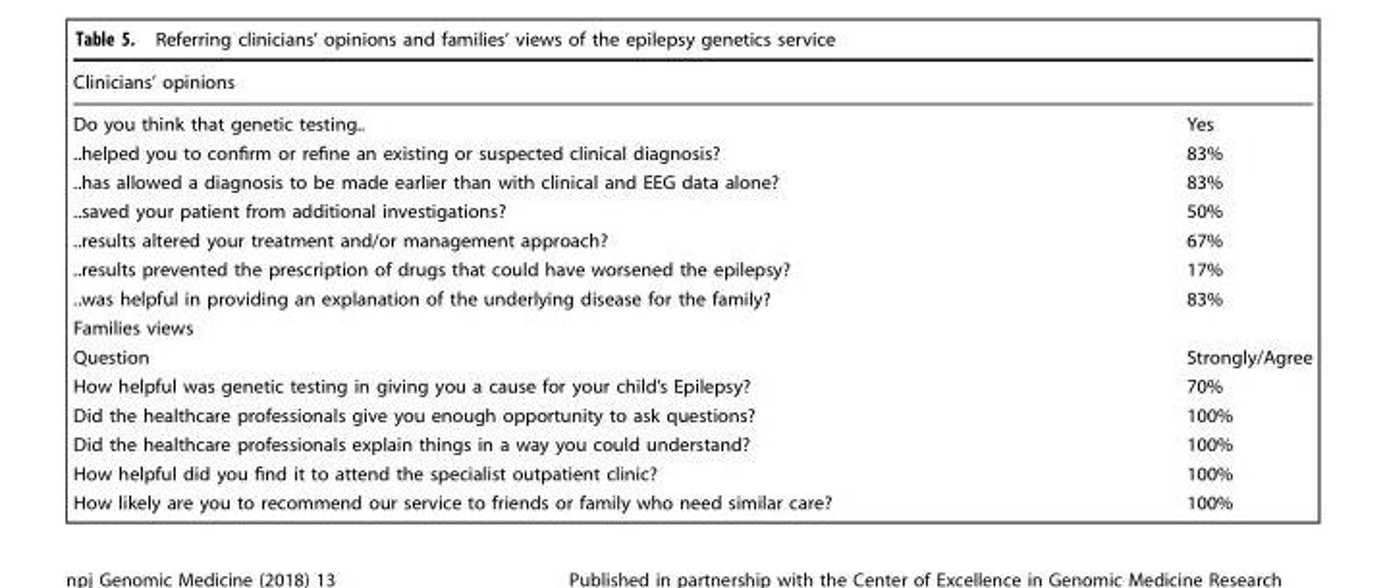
<table><thead><tr><td colspan="2">Clinicians’ opinions</td></tr><tr><td>Do you think that genetic testing..</td><td>Yes</td></tr></thead><tbody><tr><td>..helped you to confirm or refine an existing or suspected clinical diagnosis?</td><td>83%</td></tr><tr><td>..has allowed a diagnosis to be made earlier than with clinical and EEG data alone?</td><td>83%</td></tr><tr><td>..saved your patient from additional investigations?</td><td>50%</td></tr><tr><td>..results altered your treatment and/or management approach?</td><td>67%</td></tr><tr><td>..results prevented the prescription of drugs that could have worsened the epilepsy?</td><td>17%</td></tr><tr><td>..was helpful in providing an explanation of the underlying disease for the family?</td><td>83%</td></tr><tr><td colspan="2">Families views</td></tr><tr><td>Question</td><td>Strongly/Agree</td></tr><tr><td>How helpful was genetic testing in giving you a cause for your child’s Epilepsy?</td><td>70%</td></tr><tr><td>Did the healthcare professionals give you enough opportunity to ask questions?</td><td>100%</td></tr><tr><td>Did the healthcare professionals explain things in a way you could understand?</td><td>100%</td></tr><tr><td>How helpful did you find it to attend the specialist outpatient clinic?</td><td>100%</td></tr><tr><td>How likely are you to recommend our service to friends or family who need similar care?</td><td>100%</td></tr></tbody></table>